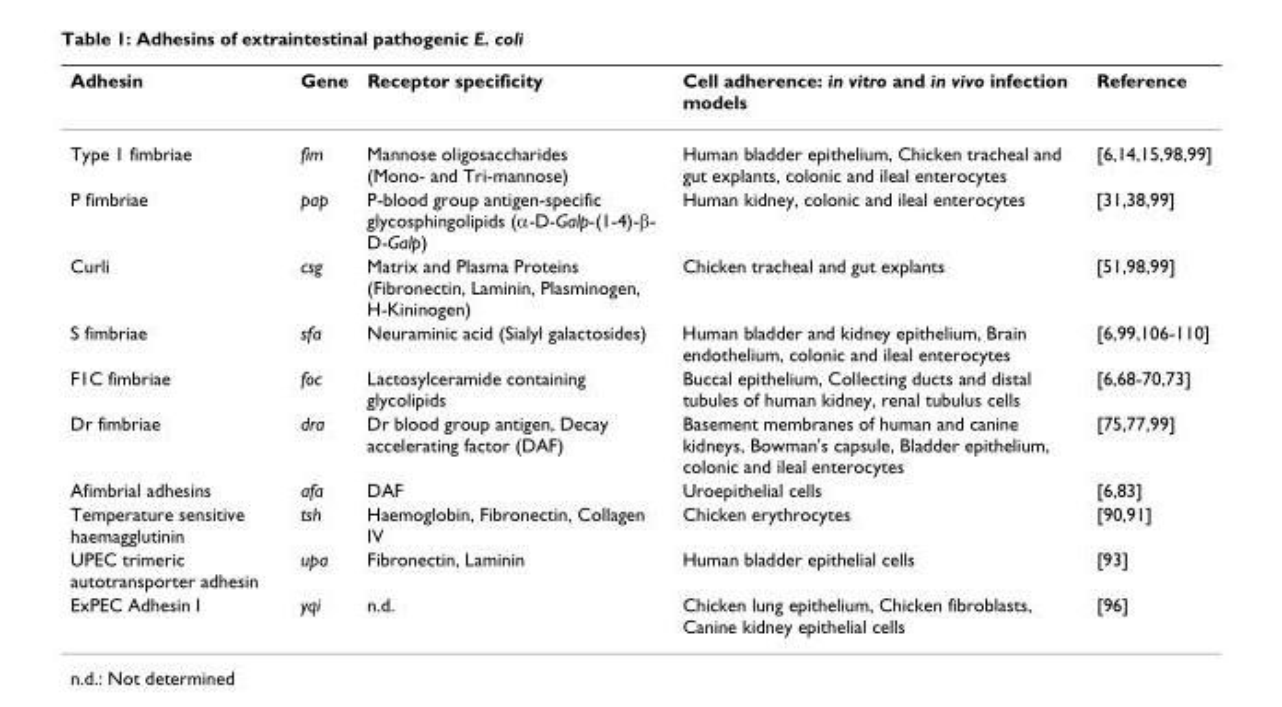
<table><thead><tr><td>Adhesin</td><td>Gene</td><td>Receptor specificity</td><td>Cell adherence: in vitro and in vivo infection models</td><td>Reference</td></tr></thead><tbody><tr><td>Type 1 fimbriae</td><td>fim</td><td>Mannose oligosaccharides (Mono- and Tri-mannose)</td><td>Human bladder epithelium, Chicken tracheal and gut explants, colonic and ileal enterocytes</td><td>[6,14,15,98,99]</td></tr><tr><td>P fimbriae</td><td>pap</td><td>P-blood group antigen-specific glycosphingolipids (α-D-Galp-(1-4)-β- D-Galp)</td><td>Human kidney, colonic and ileal enterocytes</td><td>[31,38,99]</td></tr><tr><td>Curli</td><td>csg</td><td>Matrix and Plasma Proteins (Fibronectin, Laminin, Plasminogen, H-Kininogen)</td><td>Chicken tracheal and gut explants</td><td>[51,98,99]</td></tr><tr><td>S fimbriae</td><td>sfa</td><td>Neuraminic acid (Sialyl galactosides)</td><td>Human bladder and kidney epithelium, Brain endothelium, colonic and ileal enterocytes</td><td>[6,99,106-110]</td></tr><tr><td>F1C fimbriae</td><td>foc</td><td>Lactosylceramide containing glycolipids</td><td>Buccal epithelium, Collecting ducts and distal tubules of human kidney, renal tubulus cells</td><td>[6,68-70,73]</td></tr><tr><td>Dr fimbriae</td><td>dra</td><td>Dr blood group antigen, Decay accelerating factor (DAF)</td><td>Basement membranes of human and canine kidneys, Bowman&#x27;s capsule, Bladder epithelium, colonic and ileal enterocytes</td><td>[75,77,99]</td></tr><tr><td>Afimbrial adhesins</td><td>afa</td><td>DAF</td><td>Uroepithelial cells</td><td>[6,83]</td></tr><tr><td>Temperature sensitive haemagglutinin</td><td>tsh</td><td>Haemoglobin, Fibronectin, Collagen IV</td><td>Chicken erythrocytes</td><td>[90,91]</td></tr><tr><td>UPEC trimeric autotransporter adhesin</td><td>upa</td><td>Fibronectin, Laminin</td><td>Human bladder epithelial cells</td><td>[93]</td></tr><tr><td>ExPEC Adhesin I</td><td>yqi</td><td>n.d.</td><td>Chicken lung epithelium, Chicken fibroblasts, Canine kidney epithelial cells</td><td>[96]</td></tr></tbody></table>